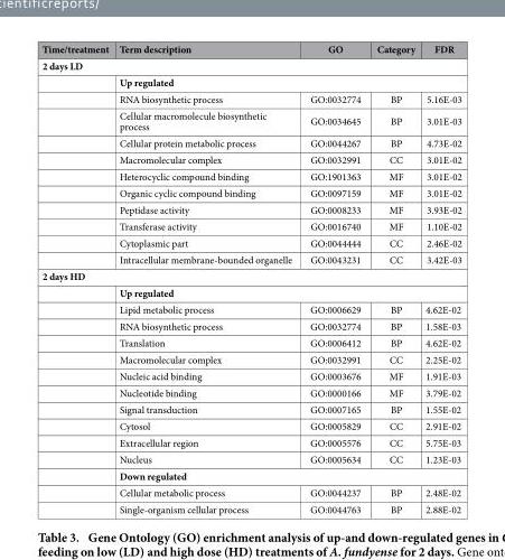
<table><thead><tr><td>Time/treatment</td><td>Term description</td><td>GO</td><td>Category</td><td>FDR</td></tr></thead><tbody><tr><td colspan="5">2 days LD</td></tr><tr><td></td><td colspan="4">Up regulated</td></tr><tr><td></td><td>RNA biosynthetic process</td><td>GO:0032774</td><td>BP</td><td>5.16E-03</td></tr><tr><td></td><td>Cellular macromolecule biosynthetic process</td><td>GO:0034645</td><td>BP</td><td>3.01E-03</td></tr><tr><td></td><td>Cellular protein metabolic process</td><td>GO:0044267</td><td>BP</td><td>4.73E-02</td></tr><tr><td></td><td>Macromolecular complex</td><td>GO:0032991</td><td>CC</td><td>3.01E-02</td></tr><tr><td></td><td>Heterocyclic compound binding</td><td>GO:1901363</td><td>MF</td><td>3.01E-02</td></tr><tr><td></td><td>Organic cyclic compound binding</td><td>GO:0097159</td><td>MF</td><td>3.01E-02</td></tr><tr><td></td><td>Peptidase activity</td><td>GO:0008233</td><td>MF</td><td>3.93E-02</td></tr><tr><td></td><td>Transferase activity</td><td>GO:0016740</td><td>MF</td><td>1.10E-02</td></tr><tr><td></td><td>Cytoplasmic part</td><td>GO:0044444</td><td>CC</td><td>2.46E-02</td></tr><tr><td></td><td>Intracellular membrane-bounded organelle</td><td>GO:0043231</td><td>CC</td><td>3.42E-03</td></tr><tr><td colspan="5">2 days HD</td></tr><tr><td></td><td colspan="4">Up regulated</td></tr><tr><td></td><td>Lipid metabolic process</td><td>GO:0006629</td><td>BP</td><td>4.62E-02</td></tr><tr><td></td><td>RNA biosynthetic process</td><td>GO:0032774</td><td>BP</td><td>1.58E-03</td></tr><tr><td></td><td>Translation</td><td>GO:0006412</td><td>BP</td><td>4.62E-02</td></tr><tr><td></td><td>Macromolecular complex</td><td>GO:0032991</td><td>CC</td><td>2.25E-02</td></tr><tr><td></td><td>Nucleic acid binding</td><td>GO:0003676</td><td>MF</td><td>1.91E-03</td></tr><tr><td></td><td>Nucleotide binding</td><td>GO:0000166</td><td>MF</td><td>3.79E-02</td></tr><tr><td></td><td>Signal transduction</td><td>GO:0007165</td><td>BP</td><td>1.55E-02</td></tr><tr><td></td><td>Cytosol</td><td>GO:0005829</td><td>CC</td><td>2.91E-02</td></tr><tr><td></td><td>Extracellular region</td><td>GO:0005576</td><td>CC</td><td>5.75E-03</td></tr><tr><td></td><td>Nucleus</td><td>GO:0005634</td><td>CC</td><td>1.23E-03</td></tr><tr><td></td><td colspan="4">Down regulated</td></tr><tr><td></td><td>Cellular metabolic process</td><td>GO:0044237</td><td>BP</td><td>2.48E-02</td></tr><tr><td></td><td>Single-organism cellular process</td><td>GO:0044763</td><td>BP</td><td>2.88E-02</td></tr></tbody></table>